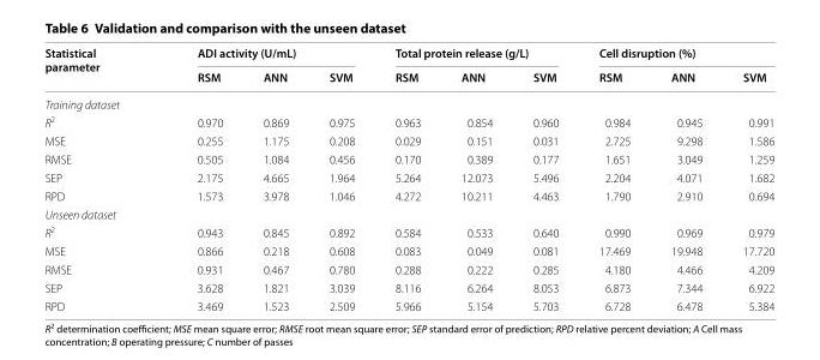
<table><thead><tr><td rowspan="2">Statistical parameter</td><td colspan="3">ADI activity (U/mL)</td><td colspan="3">Total protein release (g/L)</td><td colspan="3">Cell disruption (%)</td></tr><tr><td>RSM</td><td>ANN</td><td>SVM</td><td>RSM</td><td>ANN</td><td>SVM</td><td>RSM</td><td>ANN</td><td>SVM</td></tr></thead><tbody><tr><td colspan="10">Training dataset</td></tr><tr><td>R<sup>2</sup></td><td>0.970</td><td>0.869</td><td>0.975</td><td>0.963</td><td>0.854</td><td>0.960</td><td>0.984</td><td>0.945</td><td>0.991</td></tr><tr><td>MSE</td><td>0.255</td><td>1.175</td><td>0.208</td><td>0.029</td><td>0.151</td><td>0.031</td><td>2.725</td><td>9.298</td><td>1.586</td></tr><tr><td>RMSE</td><td>0.505</td><td>1.084</td><td>0.456</td><td>0.170</td><td>0.389</td><td>0.177</td><td>1.651</td><td>3.049</td><td>1.259</td></tr><tr><td>SEP</td><td>2.175</td><td>4.665</td><td>1.964</td><td>5.264</td><td>12.073</td><td>5.496</td><td>2.204</td><td>4.071</td><td>1.682</td></tr><tr><td>RPD</td><td>1.573</td><td>3.978</td><td>1.046</td><td>4.272</td><td>10.211</td><td>4.463</td><td>1.790</td><td>2.910</td><td>0.694</td></tr><tr><td colspan="10">Unseen dataset</td></tr><tr><td>R<sup>2</sup></td><td>0.943</td><td>0.845</td><td>0.892</td><td>0.584</td><td>0.533</td><td>0.640</td><td>0.990</td><td>0.969</td><td>0.979</td></tr><tr><td>MSE</td><td>0.866</td><td>0.218</td><td>0.608</td><td>0.083</td><td>0.049</td><td>0.081</td><td>17.469</td><td>19.948</td><td>17.720</td></tr><tr><td>RMSE</td><td>0.931</td><td>0.467</td><td>0.780</td><td>0.288</td><td>0.222</td><td>0.285</td><td>4.180</td><td>4.466</td><td>4.209</td></tr><tr><td>SEP</td><td>3.628</td><td>1.821</td><td>3.039</td><td>8.116</td><td>6.264</td><td>8.053</td><td>6.873</td><td>7.344</td><td>6.922</td></tr><tr><td>RPD</td><td>3.469</td><td>1.523</td><td>2.509</td><td>5.966</td><td>5.154</td><td>5.703</td><td>6.728</td><td>6.478</td><td>5.384</td></tr></tbody></table>